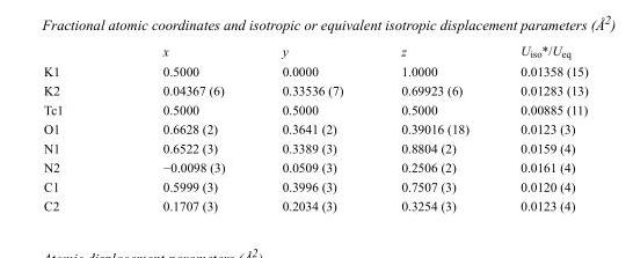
<table><thead><tr><td></td><td>x</td><td>y</td><td>z</td><td>U<sub>iso</sub>*/U<sub>eq</sub></td></tr></thead><tbody><tr><td>K1</td><td>0.5000</td><td>0.0000</td><td>1.0000</td><td>0.01358 (15)</td></tr><tr><td>K2</td><td>0.04367 (6)</td><td>0.33536 (7)</td><td>0.69923 (6)</td><td>0.01283 (13)</td></tr><tr><td>Tc1</td><td>0.5000</td><td>0.5000</td><td>0.5000</td><td>0.00885 (11)</td></tr><tr><td>O1</td><td>0.6628 (2)</td><td>0.3641 (2)</td><td>0.39016 (18)</td><td>0.0123 (3)</td></tr><tr><td>N1</td><td>0.6522 (3)</td><td>0.3389 (3)</td><td>0.8804 (2)</td><td>0.0159 (4)</td></tr><tr><td>N2</td><td>−0.0098 (3)</td><td>0.0509 (3)</td><td>0.2506 (2)</td><td>0.0161 (4)</td></tr><tr><td>C1</td><td>0.5999 (3)</td><td>0.3996 (3)</td><td>0.7507 (3)</td><td>0.0120 (4)</td></tr><tr><td>C2</td><td>0.1707 (3)</td><td>0.2034 (3)</td><td>0.3254 (3)</td><td>0.0123 (4)</td></tr></tbody></table>